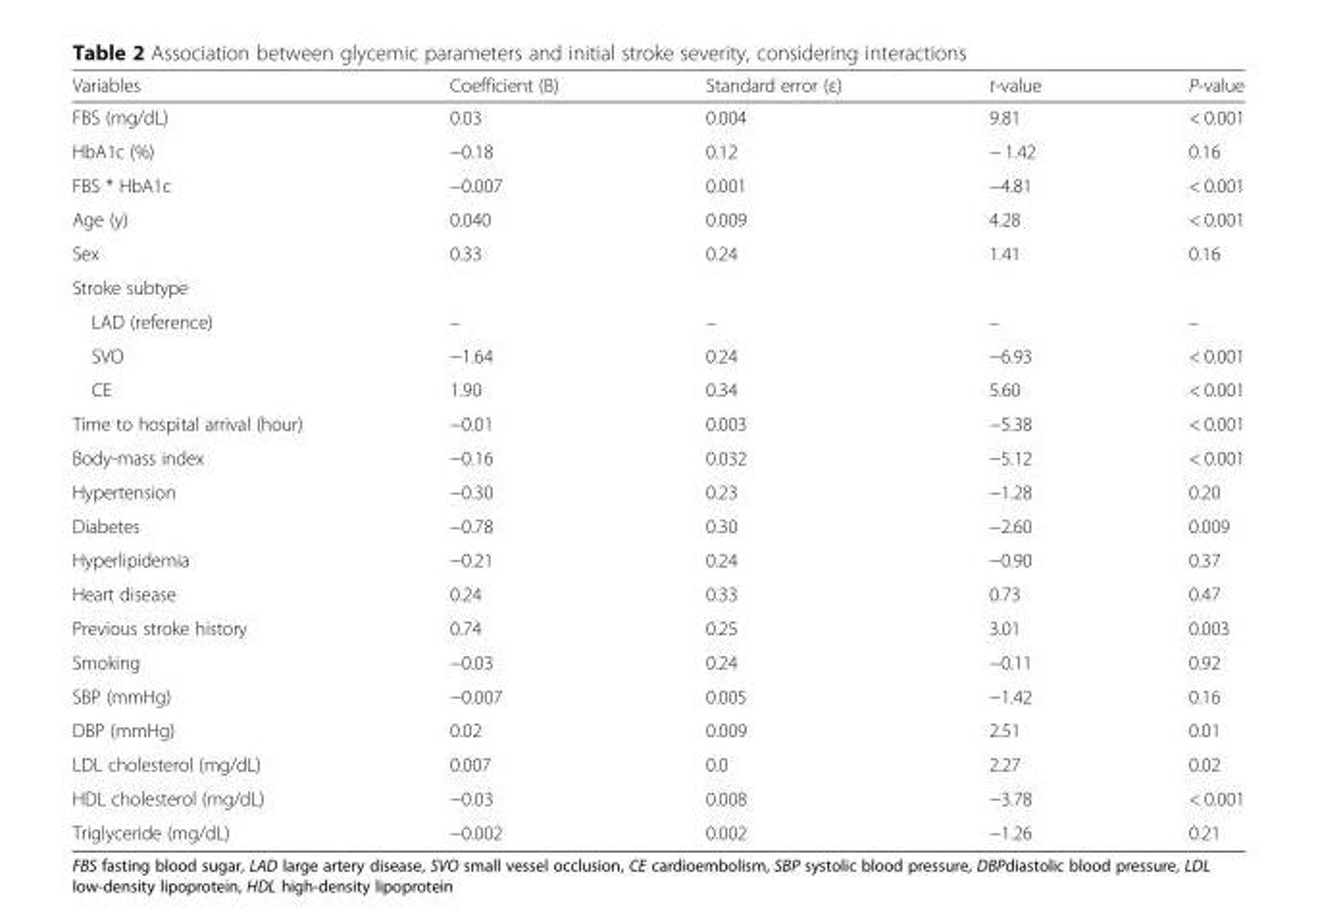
<table><thead><tr><td>Variables</td><td>Coefficient (B)</td><td>Standard error (ε)</td><td>t-value</td><td>P-value</td></tr></thead><tbody><tr><td>FBS (mg/dL)</td><td>0.03</td><td>0.004</td><td>9.81</td><td>&lt; 0.001</td></tr><tr><td>HbA1c (%)</td><td>−0.18</td><td>0.12</td><td>− 1.42</td><td>0.16</td></tr><tr><td>FBS * HbA1c</td><td>−0.007</td><td>0.001</td><td>−4.81</td><td>&lt; 0.001</td></tr><tr><td>Age (y)</td><td>0.040</td><td>0.009</td><td>4.28</td><td>&lt; 0.001</td></tr><tr><td>Sex</td><td>0.33</td><td>0.24</td><td>1.41</td><td>0.16</td></tr><tr><td colspan="5">Stroke subtype</td></tr><tr><td>LAD (reference)</td><td>–</td><td>–</td><td>–</td><td>–</td></tr><tr><td>SVO</td><td>−1.64</td><td>0.24</td><td>−6.93</td><td>&lt; 0.001</td></tr><tr><td>CE</td><td>1.90</td><td>0.34</td><td>5.60</td><td>&lt; 0.001</td></tr><tr><td>Time to hospital arrival (hour)</td><td>−0.01</td><td>0.003</td><td>−5.38</td><td>&lt; 0.001</td></tr><tr><td>Body-mass index</td><td>−0.16</td><td>0.032</td><td>−5.12</td><td>&lt; 0.001</td></tr><tr><td>Hypertension</td><td>−0.30</td><td>0.23</td><td>−1.28</td><td>0.20</td></tr><tr><td>Diabetes</td><td>−0.78</td><td>0.30</td><td>−2.60</td><td>0.009</td></tr><tr><td>Hyperlipidemia</td><td>−0.21</td><td>0.24</td><td>−0.90</td><td>0.37</td></tr><tr><td>Heart disease</td><td>0.24</td><td>0.33</td><td>0.73</td><td>0.47</td></tr><tr><td>Previous stroke history</td><td>0.74</td><td>0.25</td><td>3.01</td><td>0.003</td></tr><tr><td>Smoking</td><td>−0.03</td><td>0.24</td><td>−0.11</td><td>0.92</td></tr><tr><td>SBP (mmHg)</td><td>−0.007</td><td>0.005</td><td>−1.42</td><td>0.16</td></tr><tr><td>DBP (mmHg)</td><td>0.02</td><td>0.009</td><td>2.51</td><td>0.01</td></tr><tr><td>LDL cholesterol (mg/dL)</td><td>0.007</td><td>0.0</td><td>2.27</td><td>0.02</td></tr><tr><td>HDL cholesterol (mg/dL)</td><td>−0.03</td><td>0.008</td><td>−3.78</td><td>&lt; 0.001</td></tr><tr><td>Triglyceride (mg/dL)</td><td>−0.002</td><td>0.002</td><td>−1.26</td><td>0.21</td></tr></tbody></table>